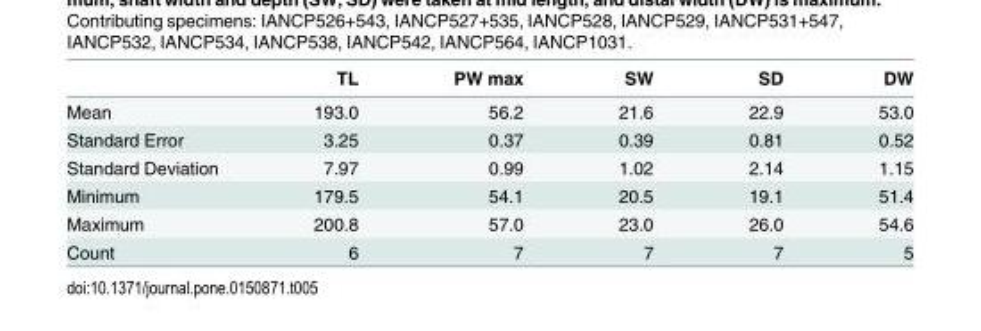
<table><thead><tr><td></td><td>TL</td><td>PW max</td><td>SW</td><td>SD</td><td>DW</td></tr></thead><tbody><tr><td>Mean</td><td>193.0</td><td>56.2</td><td>21.6</td><td>22.9</td><td>53.0</td></tr><tr><td>Standard Error</td><td>3.25</td><td>0.37</td><td>0.39</td><td>0.81</td><td>0.52</td></tr><tr><td>Standard Deviation</td><td>7.97</td><td>0.99</td><td>1.02</td><td>2.14</td><td>1.15</td></tr><tr><td>Minimum</td><td>179.5</td><td>54.1</td><td>20.5</td><td>19.1</td><td>51.4</td></tr><tr><td>Maximum</td><td>200.8</td><td>57.0</td><td>23.0</td><td>26.0</td><td>54.6</td></tr><tr><td>Count</td><td>6</td><td>7</td><td>7</td><td>7</td><td>5</td></tr></tbody></table>